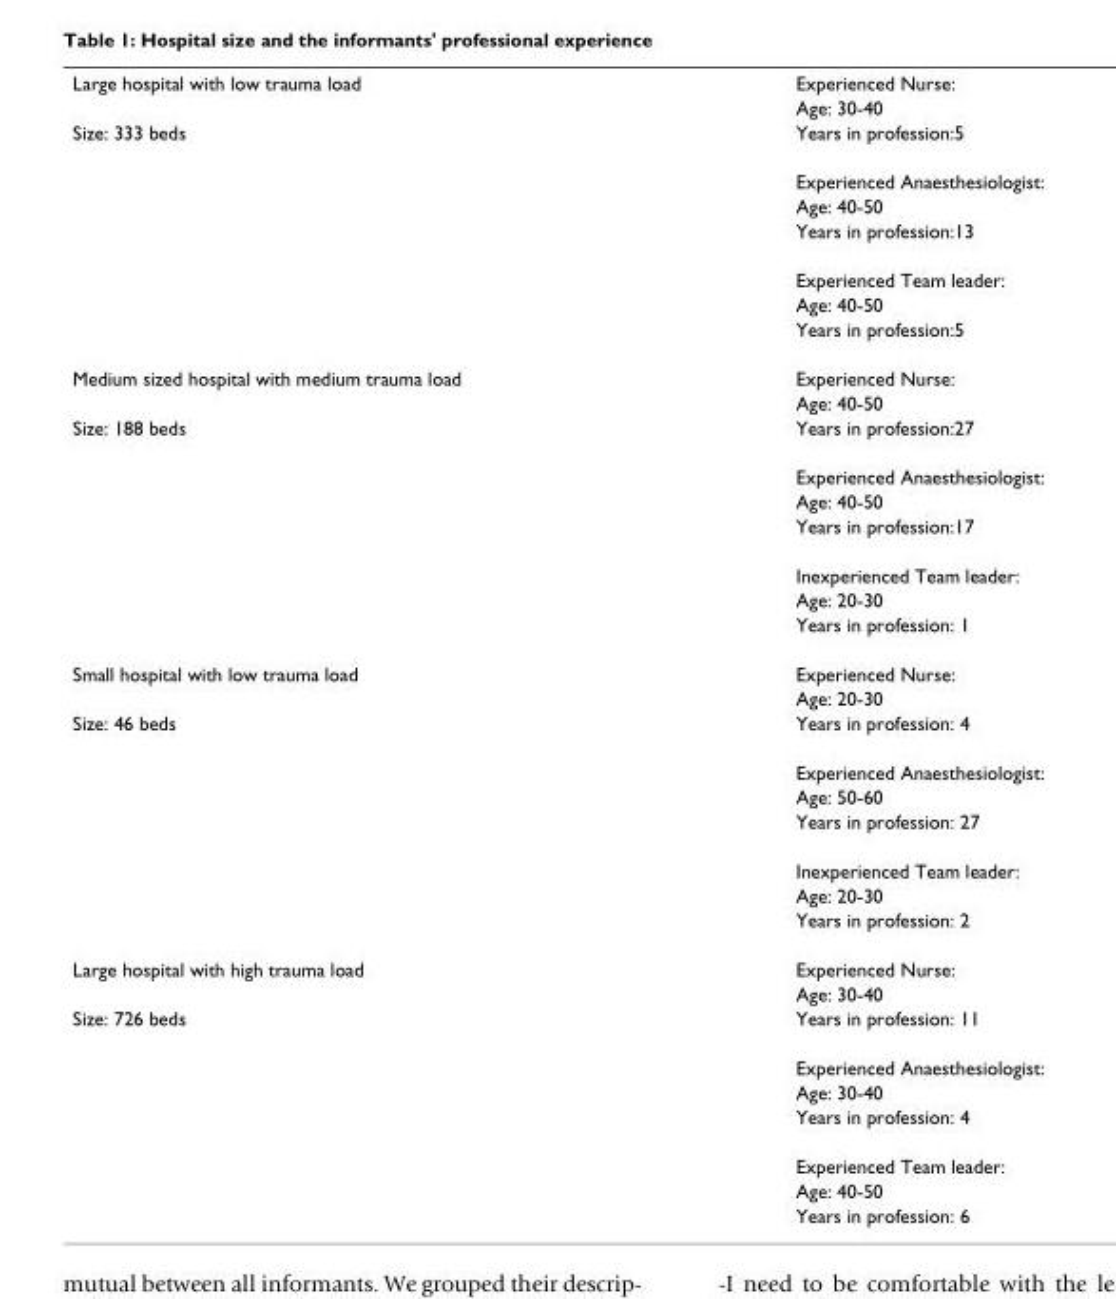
<table><tbody><tr><td rowspan="2">Large hospital with low trauma load</td><td>Experienced Nurse:</td></tr><tr><td>Age: 30-40</td></tr><tr><td rowspan="7">Size: 333 beds</td><td>Years in profession:5</td></tr><tr><td>Experienced Anaesthesiologist:</td></tr><tr><td>Age: 40-50</td></tr><tr><td>Years in profession:13</td></tr><tr><td>Experienced Team leader:</td></tr><tr><td>Age: 40-50</td></tr><tr><td>Years in profession:5</td></tr><tr><td rowspan="2">Medium sized hospital with medium trauma load</td><td>Experienced Nurse:</td></tr><tr><td>Age: 40-50</td></tr><tr><td rowspan="7">Size: 188 beds</td><td>Years in profession:27</td></tr><tr><td>Experienced Anaesthesiologist:</td></tr><tr><td>Age: 40-50</td></tr><tr><td>Years in profession:17</td></tr><tr><td>Inexperienced Team leader:</td></tr><tr><td>Age: 20-30</td></tr><tr><td>Years in profession: 1</td></tr><tr><td rowspan="2">Small hospital with low trauma load</td><td>Experienced Nurse:</td></tr><tr><td>Age: 20-30</td></tr><tr><td rowspan="7">Size: 46 beds</td><td>Years in profession: 4</td></tr><tr><td>Experienced Anaesthesiologist:</td></tr><tr><td>Age: 50-60</td></tr><tr><td>Years in profession: 27</td></tr><tr><td>Inexperienced Team leader:</td></tr><tr><td>Age: 20-30</td></tr><tr><td>Years in profession: 2</td></tr><tr><td rowspan="2">Large hospital with high trauma load</td><td>Experienced Nurse:</td></tr><tr><td>Age: 30-40</td></tr><tr><td rowspan="7">Size: 726 beds</td><td>Years in profession: 11</td></tr><tr><td>Experienced Anaesthesiologist:</td></tr><tr><td>Age: 30-40</td></tr><tr><td>Years in profession: 4</td></tr><tr><td>Experienced Team leader:</td></tr><tr><td>Age: 40-50</td></tr><tr><td>Years in profession: 6</td></tr></tbody></table>